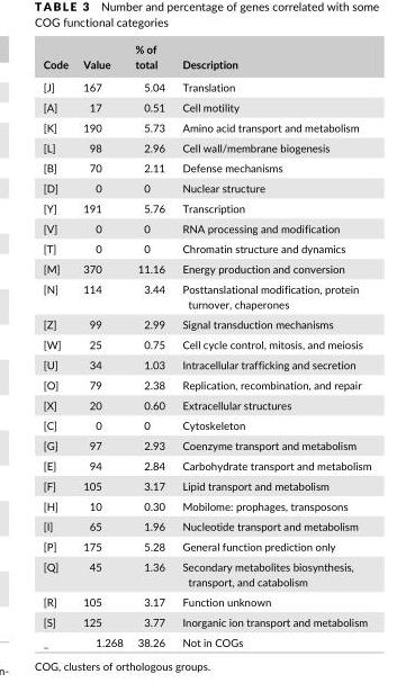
<table><thead><tr><td>Code</td><td>Value</td><td>% of total</td><td>Description</td></tr></thead><tbody><tr><td>[J]</td><td>167</td><td>5.04</td><td>Translation</td></tr><tr><td>[A]</td><td>17</td><td>0.51</td><td>Cell motility</td></tr><tr><td>[K]</td><td>190</td><td>5.73</td><td>Amino acid transport and metabolism</td></tr><tr><td>[L]</td><td>98</td><td>2.96</td><td>Cell wall/membrane biogenesis</td></tr><tr><td>[B]</td><td>70</td><td>2.11</td><td>Defense mechanisms</td></tr><tr><td>[D]</td><td>0</td><td>0</td><td>Nuclear structure</td></tr><tr><td>[Y]</td><td>191</td><td>5.76</td><td>Transcription</td></tr><tr><td>[V]</td><td>0</td><td>0</td><td>RNA processing and modification</td></tr><tr><td>[T]</td><td>0</td><td>0</td><td>Chromatin structure and dynamics</td></tr><tr><td>[M]</td><td>370</td><td>11.16</td><td>Energy production and conversion</td></tr><tr><td>[N]</td><td>114</td><td>3.44</td><td>Posttanslational modification, protein turnover, chaperones</td></tr><tr><td>[Z]</td><td>99</td><td>2.99</td><td>Signal transduction mechanisms</td></tr><tr><td>[W]</td><td>25</td><td>0.75</td><td>Cell cycle control, mitosis, and meiosis</td></tr><tr><td>[U]</td><td>34</td><td>1.03</td><td>Intracellular trafficking and secretion</td></tr><tr><td>[O]</td><td>79</td><td>2.38</td><td>Replication, recombination, and repair</td></tr><tr><td>[X]</td><td>20</td><td>0.60</td><td>Extracellular structures</td></tr><tr><td>[C]</td><td>0</td><td>0</td><td>Cytoskeleton</td></tr><tr><td>[G]</td><td>97</td><td>2.93</td><td>Coenzyme transport and metabolism</td></tr><tr><td>[E]</td><td>94</td><td>2.84</td><td>Carbohydrate transport and metabolism</td></tr><tr><td>[F]</td><td>105</td><td>3.17</td><td>Lipid transport and metabolism</td></tr><tr><td>[H]</td><td>10</td><td>0.30</td><td>Mobilome: prophages, transposons</td></tr><tr><td>[I]</td><td>65</td><td>1.96</td><td>Nucleotide transport and metabolism</td></tr><tr><td>[P]</td><td>175</td><td>5.28</td><td>General function prediction only</td></tr><tr><td>[Q]</td><td>45</td><td>1.36</td><td>Secondary metabolites biosynthesis, transport, and catabolism</td></tr><tr><td>[R]</td><td>105</td><td>3.17</td><td>Function unknown</td></tr><tr><td>[S]</td><td>125</td><td>3.77</td><td>Inorganic ion transport and metabolism</td></tr><tr><td>_</td><td>1.268</td><td>38.26</td><td>Not in COGs</td></tr></tbody></table>